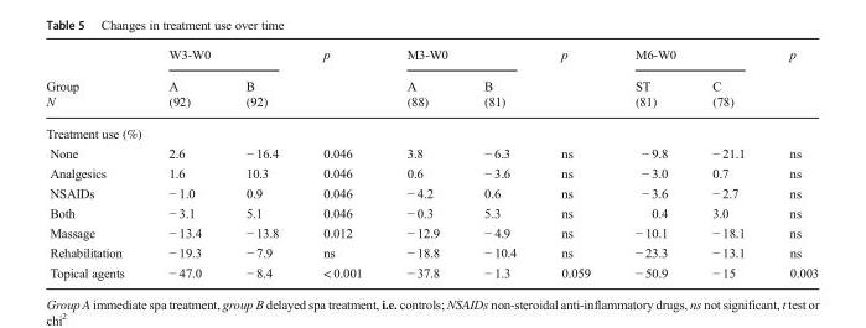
<table><thead><tr><td rowspan="3">Group N</td><td colspan="2">W3-W0</td><td rowspan="3">p</td><td colspan="2">M3-W0</td><td rowspan="3">p</td><td colspan="2">M6-W0</td><td rowspan="3">p</td></tr><tr><td rowspan="2">A (92)</td><td rowspan="2">B (92)</td><td rowspan="2">A (88)</td><td rowspan="2">B (81)</td><td rowspan="2">ST (81)</td><td rowspan="2">C (78)</td></tr><tr></tr></thead><tbody><tr><td colspan="10">Treatment use (%)</td></tr><tr><td>None</td><td>2.6</td><td>− 16.4</td><td>0.046</td><td>3.8</td><td>− 6.3</td><td>ns</td><td>− 9.8</td><td>− 21.1</td><td>ns</td></tr><tr><td>Analgesics</td><td>1.6</td><td>10.3</td><td>0.046</td><td>0.6</td><td>− 3.6</td><td>ns</td><td>− 3.0</td><td>0.7</td><td>ns</td></tr><tr><td>NSAIDs</td><td>− 1.0</td><td>0.9</td><td>0.046</td><td>− 4.2</td><td>0.6</td><td>ns</td><td>− 3.6</td><td>− 2.7</td><td>ns</td></tr><tr><td>Both</td><td>− 3.1</td><td>5.1</td><td>0.046</td><td>− 0.3</td><td>5.3</td><td>ns</td><td>0.4</td><td>3.0</td><td>ns</td></tr><tr><td>Massage</td><td>− 13.4</td><td>− 13.8</td><td>0.012</td><td>− 12.9</td><td>− 4.9</td><td>ns</td><td>− 10.1</td><td>− 18.1</td><td>ns</td></tr><tr><td>Rehabilitation</td><td>− 19.3</td><td>− 7.9</td><td>ns</td><td>− 18.8</td><td>− 10.4</td><td>ns</td><td>− 23.3</td><td>− 13.1</td><td>ns</td></tr><tr><td>Topical agents</td><td>− 47.0</td><td>− 8.4</td><td>&lt; 0.001</td><td>− 37.8</td><td>− 1.3</td><td>0.059</td><td>− 50.9</td><td>− 15</td><td>0.003</td></tr></tbody></table>